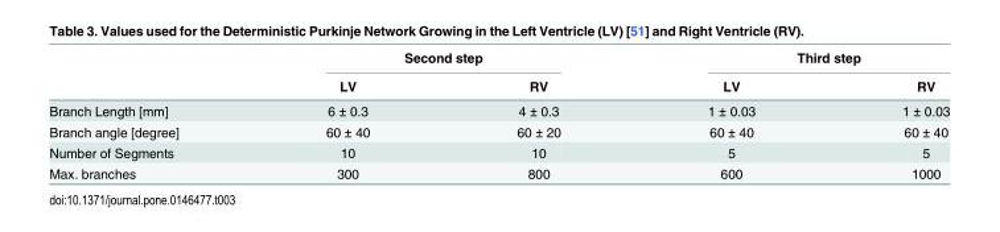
<table><thead><tr><td rowspan="2"></td><td colspan="2">Second step</td><td colspan="2">Third step</td></tr><tr><td>LV</td><td>RV</td><td>LV</td><td>RV</td></tr></thead><tbody><tr><td>Branch Length [mm]</td><td>6 ± 0.3</td><td>4 ± 0.3</td><td>1 ± 0.03</td><td>1 ± 0.03</td></tr><tr><td>Branch angle [degree]</td><td>60 ± 40</td><td>60 ± 20</td><td>60 ± 40</td><td>60 ± 40</td></tr><tr><td>Number of Segments</td><td>10</td><td>10</td><td>5</td><td>5</td></tr><tr><td>Max. branches</td><td>300</td><td>800</td><td>600</td><td>1000</td></tr></tbody></table>